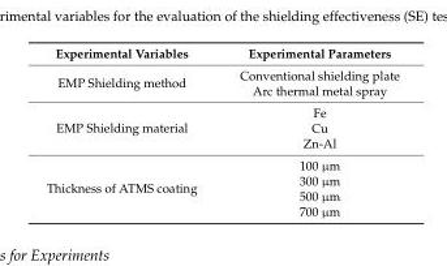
<table><thead><tr><td>Experimental Variables</td><td>Experimental Parameters</td></tr></thead><tbody><tr><td rowspan="2">EMP Shielding method</td><td>Conventional shielding plate</td></tr><tr><td>Arc thermal metal spray</td></tr><tr><td rowspan="3">EMP Shielding material</td><td>Fe</td></tr><tr><td>Cu</td></tr><tr><td>Zn-Al</td></tr><tr><td rowspan="4">Thickness of ATMS coating</td><td>100 µm</td></tr><tr><td>300 µm</td></tr><tr><td>500 µm</td></tr><tr><td>700 µm</td></tr></tbody></table>